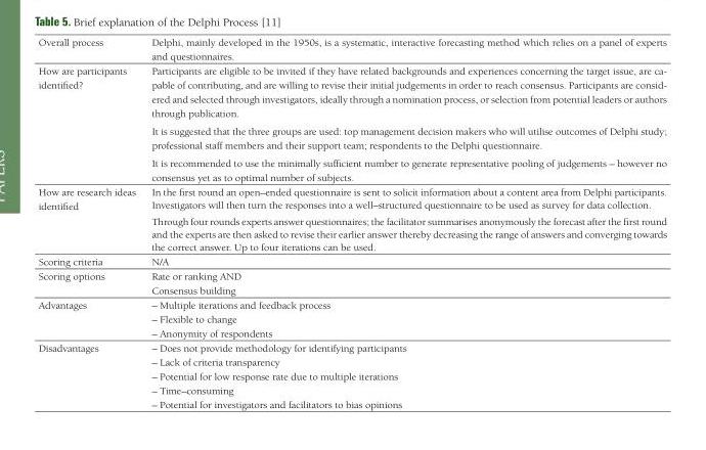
<table><tbody><tr><td>Overall process</td><td>Delphi, mainly developed in the 1950s, is a systematic, interactive forecasting method which relies on a panel of experts and questionnaires.</td></tr><tr><td>How are participants identified?</td><td>Participants are eligible to be invited if they have related backgrounds and experiences concerning the target issue, are ca- pable of contributing, and are willing to revise their initial judgements in order to reach consensus. Participants are consid- ered and selected through investigators, ideally through a nomination process, or selection from potential leaders or authors through publication. It is suggested that the three groups are used: top management decision makers who will utilise outcomes of Delphi study; professional staff members and their support team; respondents to the Delphi questionnaire. It is recommended to use the minimally sufficient number to generate representative pooling of judgements – however no consensus yet as to optimal number of subjects.</td></tr><tr><td>How are research ideas identified</td><td>In the first round an open–ended questionnaire is sent to solicit information about a content area from Delphi participants. Investigators will then turn the responses into a well–structured questionnaire to be used as survey for data collection. Through four rounds experts answer questionnaires; the facilitator summarises anonymously the forecast after the first round and the experts are then asked to revise their earlier answer thereby decreasing the range of answers and converging towards the correct answer. Up to four iterations can be used.</td></tr><tr><td>Scoring criteria</td><td>N/A</td></tr><tr><td>Scoring options</td><td>Rate or ranking AND Consensus building</td></tr><tr><td>Advantages</td><td>– Multiple iterations and feedback process – Flexible to change – Anonymity of respondents</td></tr><tr><td>Disadvantages</td><td>– Does not provide methodology for identifying participants – Lack of criteria transparency – Potential for low response rate due to multiple iterations – Time–consuming – Potential for investigators and facilitators to bias opinions</td></tr></tbody></table>